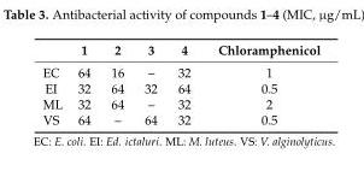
<table><thead><tr><td></td><td>1</td><td>2</td><td>3</td><td>4</td><td>Chloramphenicol</td></tr></thead><tbody><tr><td>EC</td><td>64</td><td>16</td><td>–</td><td>32</td><td>1</td></tr><tr><td>EI</td><td>32</td><td>64</td><td>32</td><td>64</td><td>0.5</td></tr><tr><td>ML</td><td>32</td><td>64</td><td>–</td><td>32</td><td>2</td></tr><tr><td>VS</td><td>64</td><td>–</td><td>64</td><td>32</td><td>0.5</td></tr></tbody></table>